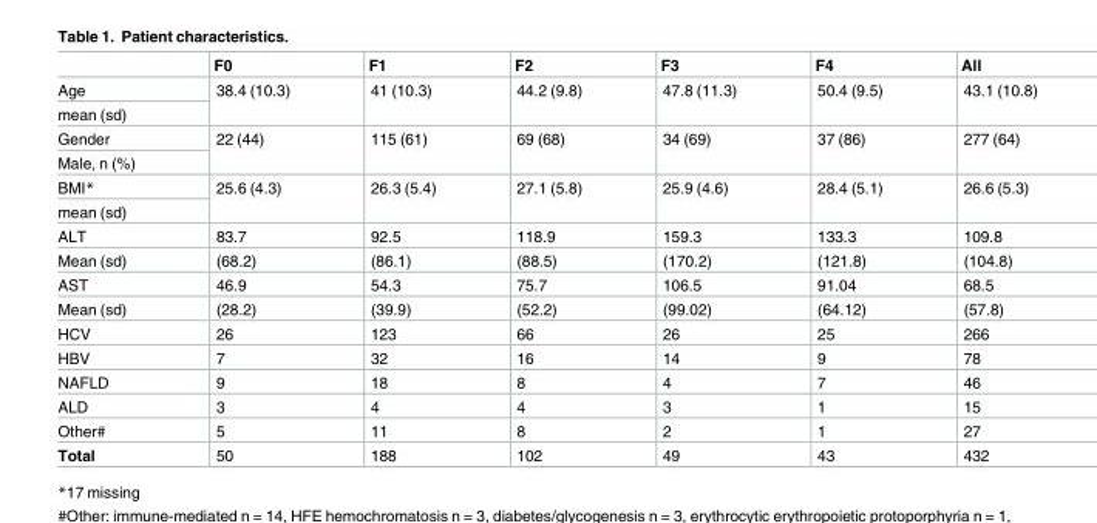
<table><thead><tr><td></td><td>F0</td><td>F1</td><td>F2</td><td>F3</td><td>F4</td><td>All</td></tr></thead><tbody><tr><td>Age</td><td rowspan="2">38.4 (10.3)</td><td rowspan="2">41 (10.3)</td><td rowspan="2">44.2 (9.8)</td><td rowspan="2">47.8 (11.3)</td><td rowspan="2">50.4 (9.5)</td><td rowspan="2">43.1 (10.8)</td></tr><tr><td>mean (sd)</td></tr><tr><td>Gender</td><td rowspan="2">22 (44)</td><td rowspan="2">115 (61)</td><td rowspan="2">69 (68)</td><td rowspan="2">34 (69)</td><td rowspan="2">37 (86)</td><td rowspan="2">277 (64)</td></tr><tr><td>Male, n (%)</td></tr><tr><td>BMI*</td><td rowspan="2">25.6 (4.3)</td><td rowspan="2">26.3 (5.4)</td><td rowspan="2">27.1 (5.8)</td><td rowspan="2">25.9 (4.6)</td><td rowspan="2">28.4 (5.1)</td><td rowspan="2">26.6 (5.3)</td></tr><tr><td>mean (sd)</td></tr><tr><td>ALT</td><td>83.7</td><td>92.5</td><td>118.9</td><td>159.3</td><td>133.3</td><td>109.8</td></tr><tr><td>Mean (sd)</td><td>(68.2)</td><td>(86.1)</td><td>(88.5)</td><td>(170.2)</td><td>(121.8)</td><td>(104.8)</td></tr><tr><td>AST</td><td>46.9</td><td>54.3</td><td>75.7</td><td>106.5</td><td>91.04</td><td>68.5</td></tr><tr><td>Mean (sd)</td><td>(28.2)</td><td>(39.9)</td><td>(52.2)</td><td>(99.02)</td><td>(64.12)</td><td>(57.8)</td></tr><tr><td>HCV</td><td>26</td><td>123</td><td>66</td><td>26</td><td>25</td><td>266</td></tr><tr><td>HBV</td><td>7</td><td>32</td><td>16</td><td>14</td><td>9</td><td>78</td></tr><tr><td>NAFLD</td><td>9</td><td>18</td><td>8</td><td>4</td><td>7</td><td>46</td></tr><tr><td>ALD</td><td>3</td><td>4</td><td>4</td><td>3</td><td>1</td><td>15</td></tr><tr><td>Other#</td><td>5</td><td>11</td><td>8</td><td>2</td><td>1</td><td>27</td></tr><tr><td>Total</td><td>50</td><td>188</td><td>102</td><td>49</td><td>43</td><td>432</td></tr></tbody></table>